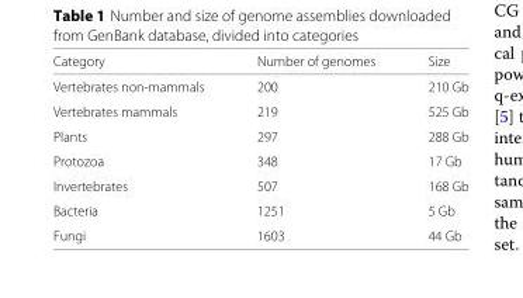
<table><thead><tr><td>Category</td><td>Number of genomes</td><td>Size</td></tr></thead><tbody><tr><td>Vertebrates non-mammals</td><td>200</td><td>210 Gb</td></tr><tr><td>Vertebrates mammals</td><td>219</td><td>525 Gb</td></tr><tr><td>Plants</td><td>297</td><td>288 Gb</td></tr><tr><td>Protozoa</td><td>348</td><td>17 Gb</td></tr><tr><td>Invertebrates</td><td>507</td><td>168 Gb</td></tr><tr><td>Bacteria</td><td>1251</td><td>5 Gb</td></tr><tr><td>Fungi</td><td>1603</td><td>44 Gb</td></tr></tbody></table>